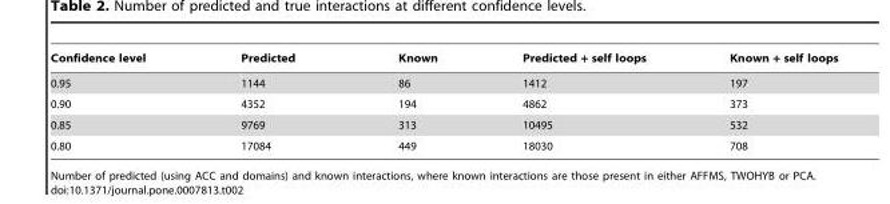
<table><thead><tr><td>Confidence level</td><td>Predicted</td><td>Known</td><td>Predicted + self loops</td><td>Known + self loops</td></tr></thead><tbody><tr><td>0.95</td><td>1144</td><td>86</td><td>1412</td><td>197</td></tr><tr><td>0.90</td><td>4352</td><td>194</td><td>4862</td><td>373</td></tr><tr><td>0.85</td><td>9769</td><td>313</td><td>10495</td><td>532</td></tr><tr><td>0.80</td><td>17084</td><td>449</td><td>18030</td><td>708</td></tr></tbody></table>